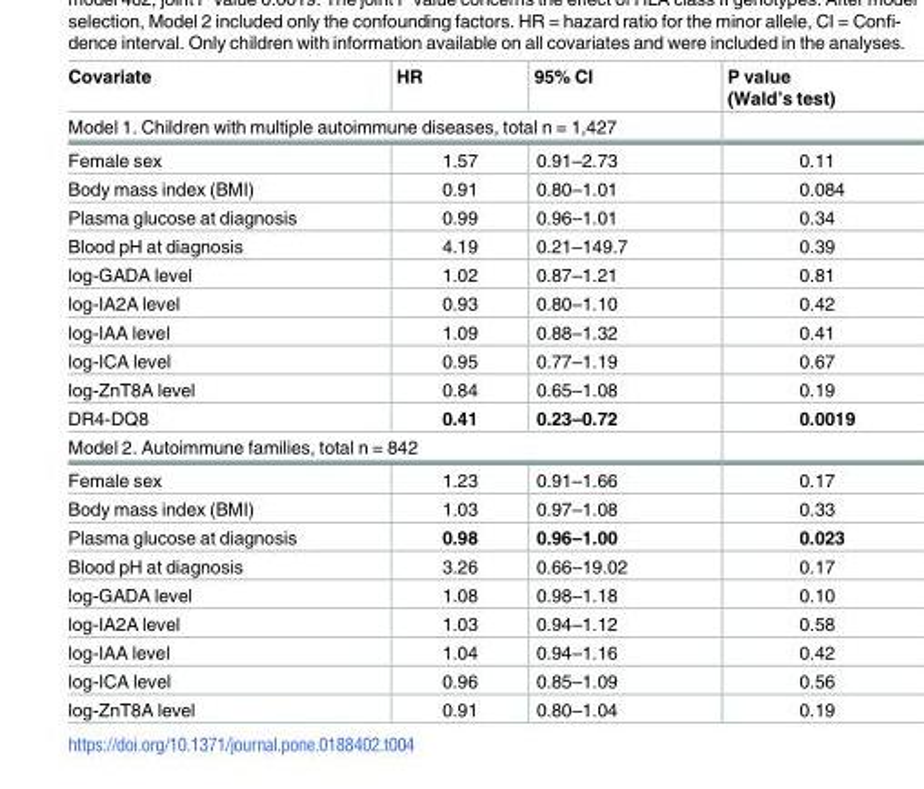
<table><thead><tr><td>Covariate</td><td>HR</td><td>95% CI</td><td>P value (Wald’s test)</td></tr></thead><tbody><tr><td colspan="4">Model 1. Children with multiple autoimmune diseases, total n = 1,427</td></tr><tr><td>Female sex</td><td>1.57</td><td>0.91–2.73</td><td>0.11</td></tr><tr><td>Body mass index (BMI)</td><td>0.91</td><td>0.80–1.01</td><td>0.084</td></tr><tr><td>Plasma glucose at diagnosis</td><td>0.99</td><td>0.96–1.01</td><td>0.34</td></tr><tr><td>Blood pH at diagnosis</td><td>4.19</td><td>0.21–149.7</td><td>0.39</td></tr><tr><td>log-GADA level</td><td>1.02</td><td>0.87–1.21</td><td>0.81</td></tr><tr><td>log-IA2A level</td><td>0.93</td><td>0.80–1.10</td><td>0.42</td></tr><tr><td>log-IAA level</td><td>1.09</td><td>0.88–1.32</td><td>0.41</td></tr><tr><td>log-ICA level</td><td>0.95</td><td>0.77–1.19</td><td>0.67</td></tr><tr><td>log-ZnT8A level</td><td>0.84</td><td>0.65–1.08</td><td>0.19</td></tr><tr><td>DR4-DQ8</td><td>0.41</td><td>0.23–0.72</td><td>0.0019</td></tr><tr><td colspan="4">Model 2. Autoimmune families, total n = 842</td></tr><tr><td>Female sex</td><td>1.23</td><td>0.91–1.66</td><td>0.17</td></tr><tr><td>Body mass index (BMI)</td><td>1.03</td><td>0.97–1.08</td><td>0.33</td></tr><tr><td>Plasma glucose at diagnosis</td><td>0.98</td><td>0.96–1.00</td><td>0.023</td></tr><tr><td>Blood pH at diagnosis</td><td>3.26</td><td>0.66–19.02</td><td>0.17</td></tr><tr><td>log-GADA level</td><td>1.08</td><td>0.98–1.18</td><td>0.10</td></tr><tr><td>log-IA2A level</td><td>1.03</td><td>0.94–1.12</td><td>0.58</td></tr><tr><td>log-IAA level</td><td>1.04</td><td>0.94–1.16</td><td>0.42</td></tr><tr><td>log-ICA level</td><td>0.96</td><td>0.85–1.09</td><td>0.56</td></tr><tr><td>log-ZnT8A level</td><td>0.91</td><td>0.80–1.04</td><td>0.19</td></tr></tbody></table>